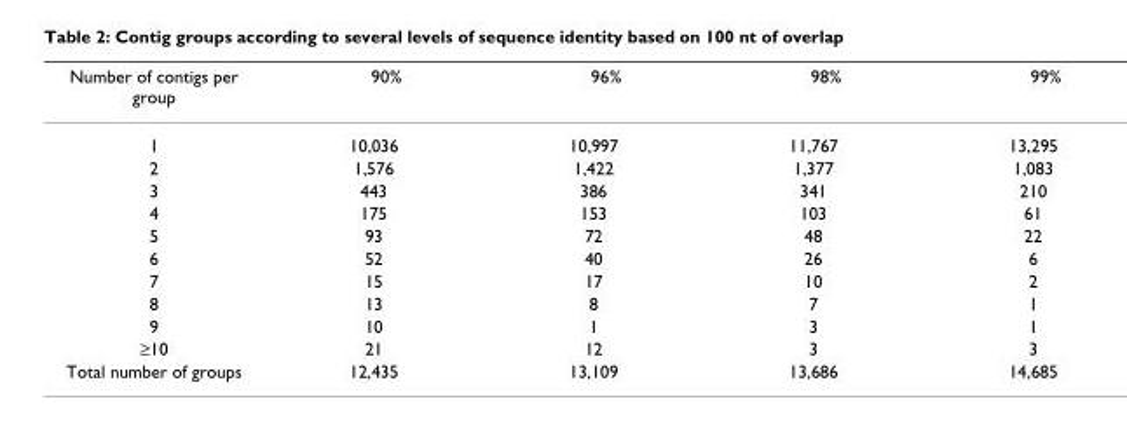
<table><thead><tr><td>Number of contigs per group</td><td>90%</td><td>96%</td><td>98%</td><td>99%</td></tr></thead><tbody><tr><td>1</td><td>10,036</td><td>10,997</td><td>11,767</td><td>13,295</td></tr><tr><td>2</td><td>1,576</td><td>1,422</td><td>1,377</td><td>1,083</td></tr><tr><td>3</td><td>443</td><td>386</td><td>341</td><td>210</td></tr><tr><td>4</td><td>175</td><td>153</td><td>103</td><td>61</td></tr><tr><td>5</td><td>93</td><td>72</td><td>48</td><td>22</td></tr><tr><td>6</td><td>52</td><td>40</td><td>26</td><td>6</td></tr><tr><td>7</td><td>15</td><td>17</td><td>10</td><td>2</td></tr><tr><td>8</td><td>13</td><td>8</td><td>7</td><td>1</td></tr><tr><td>9</td><td>10</td><td>1</td><td>3</td><td>1</td></tr><tr><td>≥10</td><td>21</td><td>12</td><td>3</td><td>3</td></tr><tr><td>Total number of groups</td><td>12,435</td><td>13,109</td><td>13,686</td><td>14,685</td></tr></tbody></table>